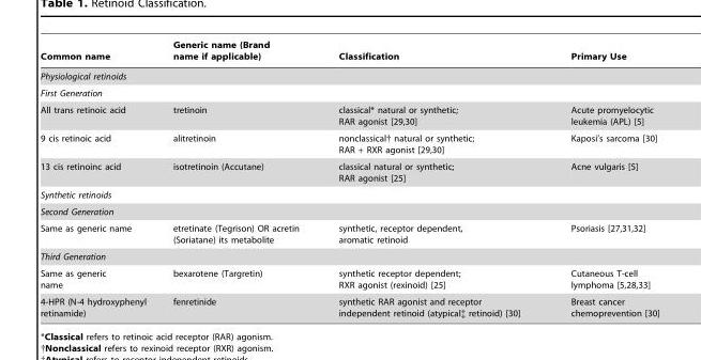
<table><thead><tr><td>Common name</td><td>Generic name (Brand name if applicable)</td><td>Classification</td><td>Primary Use</td></tr></thead><tbody><tr><td colspan="4">Physiological retinoids</td></tr><tr><td colspan="4">First Generation</td></tr><tr><td>All trans retinoic acid</td><td>tretinoin</td><td>classical* natural or synthetic; RAR agonist [29,30]</td><td>Acute promyelocytic leukemia (APL) [5]</td></tr><tr><td>9 cis retinoic acid</td><td>alitretinoin</td><td>nonclassical{ natural or synthetic; RAR + RXR agonist [29,30]</td><td>Kaposi’s sarcoma [30]</td></tr><tr><td>13 cis retinoinc acid</td><td>isotretinoin (Accutane)</td><td>classical natural or synthetic; RAR agonist [25]</td><td>Acne vulgaris [5]</td></tr><tr><td colspan="4">Synthetic retinoids</td></tr><tr><td colspan="4">Second Generation</td></tr><tr><td>Same as generic name</td><td>etretinate (Tegrison) OR acretin (Soriatane) its metabolite</td><td>synthetic, receptor dependent, aromatic retinoid</td><td>Psoriasis [27,31,32]</td></tr><tr><td colspan="4">Third Generation</td></tr><tr><td>Same as generic name</td><td>bexarotene (Targretin)</td><td>synthetic receptor dependent; RXR agonist (rexinoid) [25]</td><td>Cutaneous T-cell lymphoma [5,28,33]</td></tr><tr><td>4-HPR (N-4 hydroxyphenyl retinamide)</td><td>fenretinide</td><td>synthetic RAR agonist and receptor independent retinoid (atypical‡ retinoid) [30]</td><td>Breast cancer chemoprevention [30]</td></tr></tbody></table>